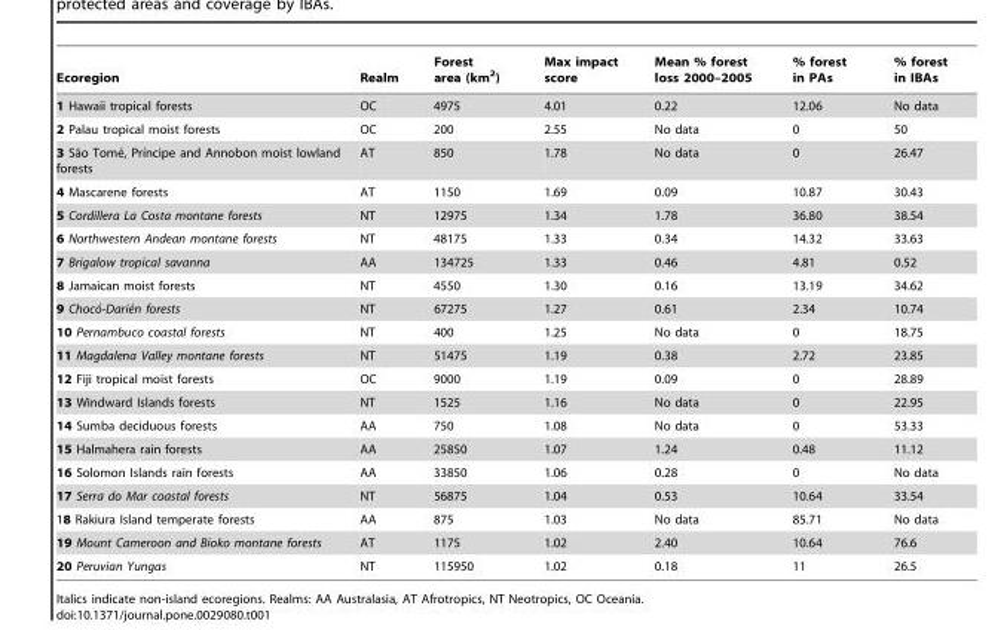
<table><thead><tr><td>Ecoregion</td><td>Realm</td><td>Forest area (km<sup>2</sup>)</td><td>Max impact score</td><td>Mean % forest loss 2000–2005</td><td>% forest in PAs</td><td>% forest in IBAs</td></tr></thead><tbody><tr><td>1 Hawaii tropical forests</td><td>OC</td><td>4975</td><td>4.01</td><td>0.22</td><td>12.06</td><td>No data</td></tr><tr><td>2 Palau tropical moist forests</td><td>OC</td><td>200</td><td>2.55</td><td>No data</td><td>0</td><td>50</td></tr><tr><td>3 Sa˜o Tome´, Prı´ncipe and Annobon moist lowland forests</td><td>AT</td><td>850</td><td>1.78</td><td>No data</td><td>0</td><td>26.47</td></tr><tr><td>4 Mascarene forests</td><td>AT</td><td>1150</td><td>1.69</td><td>0.09</td><td>10.87</td><td>30.43</td></tr><tr><td>5 Cordillera La Costa montane forests</td><td>NT</td><td>12975</td><td>1.34</td><td>1.78</td><td>36.80</td><td>38.54</td></tr><tr><td>6 Northwestern Andean montane forests</td><td>NT</td><td>48175</td><td>1.33</td><td>0.34</td><td>14.32</td><td>33.63</td></tr><tr><td>7 Brigalow tropical savanna</td><td>AA</td><td>134725</td><td>1.33</td><td>0.46</td><td>4.81</td><td>0.52</td></tr><tr><td>8 Jamaican moist forests</td><td>NT</td><td>4550</td><td>1.30</td><td>0.16</td><td>13.19</td><td>34.62</td></tr><tr><td>9 Choco´-Darie´n forests</td><td>NT</td><td>67275</td><td>1.27</td><td>0.61</td><td>2.34</td><td>10.74</td></tr><tr><td>10 Pernambuco coastal forests</td><td>NT</td><td>400</td><td>1.25</td><td>No data</td><td>0</td><td>18.75</td></tr><tr><td>11 Magdalena Valley montane forests</td><td>NT</td><td>51475</td><td>1.19</td><td>0.38</td><td>2.72</td><td>23.85</td></tr><tr><td>12 Fiji tropical moist forests</td><td>OC</td><td>9000</td><td>1.19</td><td>0.09</td><td>0</td><td>28.89</td></tr><tr><td>13 Windward Islands forests</td><td>NT</td><td>1525</td><td>1.16</td><td>No data</td><td>0</td><td>22.95</td></tr><tr><td>14 Sumba deciduous forests</td><td>AA</td><td>750</td><td>1.08</td><td>No data</td><td>0</td><td>53.33</td></tr><tr><td>15 Halmahera rain forests</td><td>AA</td><td>25850</td><td>1.07</td><td>1.24</td><td>0.48</td><td>11.12</td></tr><tr><td>16 Solomon Islands rain forests</td><td>AA</td><td>33850</td><td>1.06</td><td>0.28</td><td>0</td><td>No data</td></tr><tr><td>17 Serra do Mar coastal forests</td><td>NT</td><td>56875</td><td>1.04</td><td>0.53</td><td>10.64</td><td>33.54</td></tr><tr><td>18 Rakiura Island temperate forests</td><td>AA</td><td>875</td><td>1.03</td><td>No data</td><td>85.71</td><td>No data</td></tr><tr><td>19 Mount Cameroon and Bioko montane forests</td><td>AT</td><td>1175</td><td>1.02</td><td>2.40</td><td>10.64</td><td>76.6</td></tr><tr><td>20 Peruvian Yungas</td><td>NT</td><td>115950</td><td>1.02</td><td>0.18</td><td>11</td><td>26.5</td></tr></tbody></table>